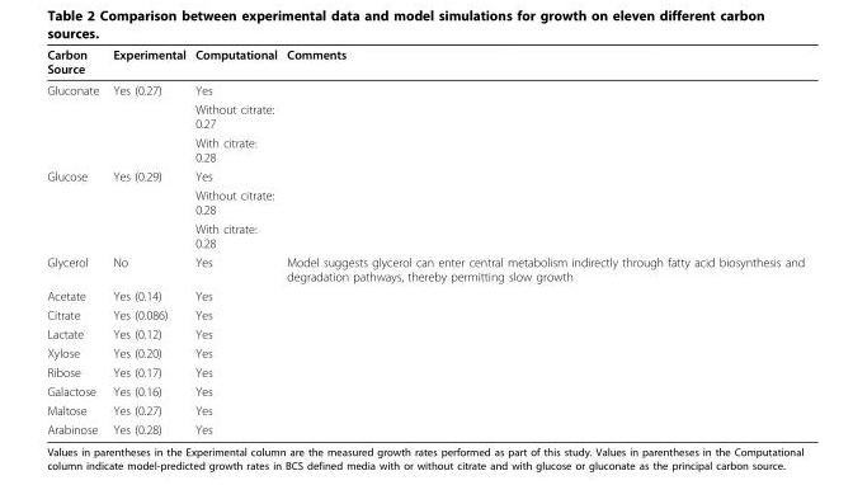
<table><thead><tr><td>Carbon Source</td><td>Experimental</td><td>Computational</td><td>Comments</td></tr></thead><tbody><tr><td rowspan="3">Gluconate</td><td>Yes (0.27)</td><td>Yes</td><td></td></tr><tr><td></td><td>Without citrate: 0.27</td><td></td></tr><tr><td></td><td>With citrate: 0.28</td><td></td></tr><tr><td rowspan="3">Glucose</td><td>Yes (0.29)</td><td>Yes</td><td></td></tr><tr><td></td><td>Without citrate: 0.28</td><td></td></tr><tr><td></td><td>With citrate: 0.28</td><td></td></tr><tr><td>Glycerol</td><td>No</td><td>Yes</td><td>Model suggests glycerol can enter central metabolism indirectly through fatty acid biosynthesis and degradation pathways, thereby permitting slow growth</td></tr><tr><td>Acetate</td><td>Yes (0.14)</td><td>Yes</td><td></td></tr><tr><td>Citrate</td><td>Yes (0.086)</td><td>Yes</td><td></td></tr><tr><td>Lactate</td><td>Yes (0.12)</td><td>Yes</td><td></td></tr><tr><td>Xylose</td><td>Yes (0.20)</td><td>Yes</td><td></td></tr><tr><td>Ribose</td><td>Yes (0.17)</td><td>Yes</td><td></td></tr><tr><td>Galactose</td><td>Yes (0.16)</td><td>Yes</td><td></td></tr><tr><td>Maltose</td><td>Yes (0.27)</td><td>Yes</td><td></td></tr><tr><td>Arabinose</td><td>Yes (0.28)</td><td>Yes</td><td></td></tr></tbody></table>